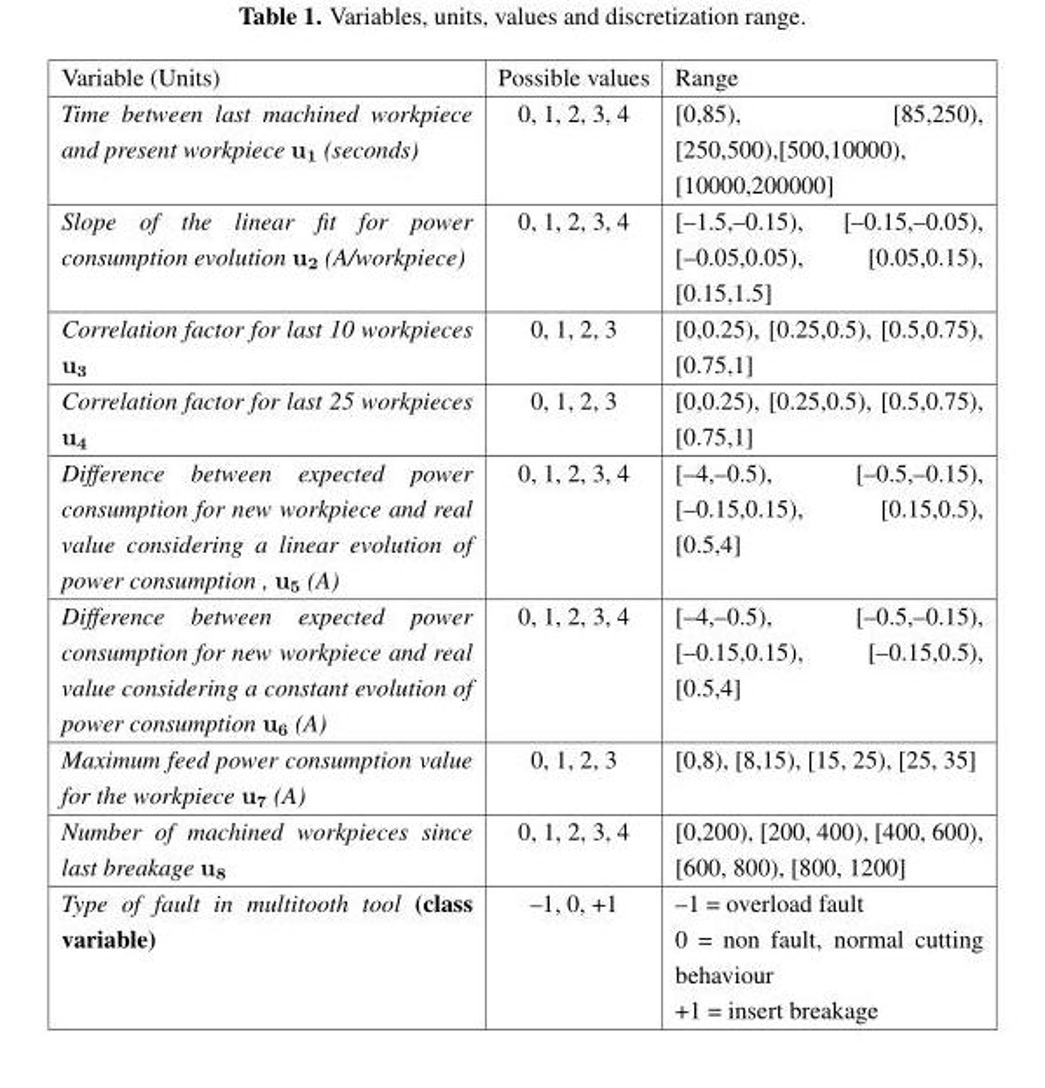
<table><thead><tr><td>Variable (Units)</td><td>Possible values</td><td>Range</td></tr></thead><tbody><tr><td>Time between last machined workpiece and present workpiece u<sub>1</sub> (seconds)</td><td>0, 1, 2, 3, 4</td><td>[0,85), [85,250), [250,500),[500,10000), [10000,200000]</td></tr><tr><td>Slope of the linear fit for power consumption evolution u<sub>2</sub> (A/workpiece)</td><td>0, 1, 2, 3, 4</td><td>[–1.5,–0.15), [–0.15,–0.05), [–0.05,0.05), [0.05,0.15), [0.15,1.5]</td></tr><tr><td>Correlation factor for last 10 workpieces u<sub>3</sub></td><td>0, 1, 2, 3</td><td>[0,0.25), [0.25,0.5), [0.5,0.75), [0.75,1]</td></tr><tr><td>Correlation factor for last 25 workpieces u<sub>4</sub></td><td>0, 1, 2, 3</td><td>[0,0.25), [0.25,0.5), [0.5,0.75), [0.75,1]</td></tr><tr><td>Difference between expected power consumption for new workpiece and real value considering a linear evolution of power consumption , u<sub>5</sub> (A)</td><td>0, 1, 2, 3, 4</td><td>[–4,–0.5), [–0.5,–0.15), [–0.15,0.15), [0.15,0.5), [0.5,4]</td></tr><tr><td>Difference between expected power consumption for new workpiece and real value considering a constant evolution of power consumption u<sub>6</sub> (A)</td><td>0, 1, 2, 3, 4</td><td>[–4,–0.5), [–0.5,–0.15), [–0.15,0.15), [–0.15,0.5), [0.5,4]</td></tr><tr><td>Maximum feed power consumption value for the workpiece u<sub>7</sub> (A)</td><td>0, 1, 2, 3</td><td>[0,8), [8,15), [15, 25), [25, 35]</td></tr><tr><td>Number of machined workpieces since last breakage u<sub>8</sub></td><td>0, 1, 2, 3, 4</td><td>[0,200), [200, 400), [400, 600), [600, 800), [800, 1200]</td></tr><tr><td>Type of fault in multitooth tool (class variable)</td><td>–1, 0, +1</td><td>–1 = overload fault 0 = non fault, normal cutting behaviour +1 = insert breakage</td></tr></tbody></table>